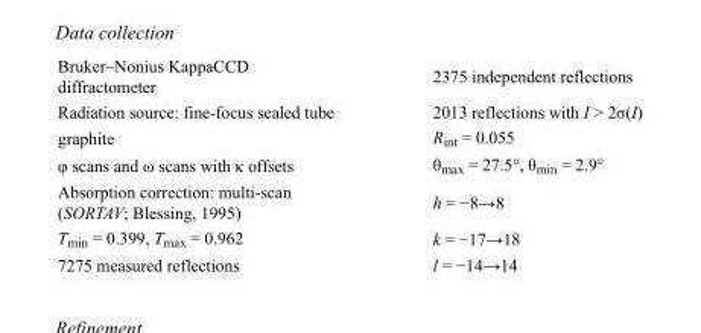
<table><tbody><tr><td>Bruker–Nonius KappaCCD diffractometer</td><td>2375 independent reflections</td></tr><tr><td>Radiation source: fine-focus sealed tube</td><td>2013 reflections with I &gt; 2σ(I)</td></tr><tr><td>graphite</td><td>R<sub>int</sub> = 0.055</td></tr><tr><td>φ scans and ω scans with κ offsets</td><td>θ<sub>max</sub> = 27.5°, θ<sub>min</sub> = 2.9°</td></tr><tr><td>Absorption correction: multi-scan (SORTAV; Blessing, 1995)</td><td>h = −8→8</td></tr><tr><td>T<sub>min</sub> = 0.399, T<sub>max</sub> = 0.962</td><td>k = −17→18</td></tr><tr><td>7275 measured reflections</td><td>l = −14→14</td></tr></tbody></table>